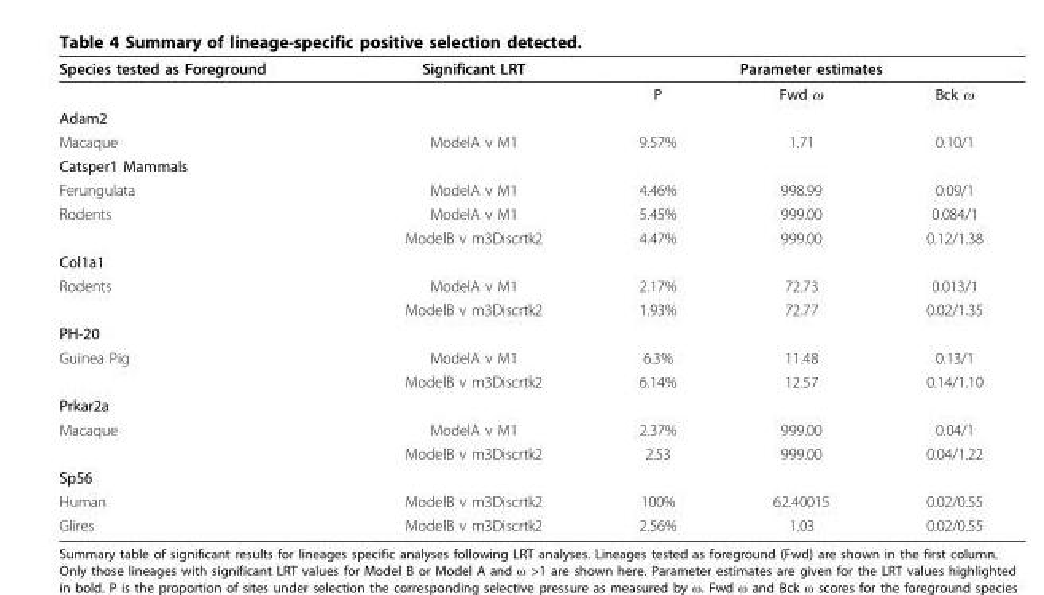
<table><thead><tr><td rowspan="2">Species tested as Foreground</td><td rowspan="2">Significant LRT</td><td colspan="3">Parameter estimates</td></tr><tr><td>P</td><td>Fwd ω</td><td>Bck ω</td></tr></thead><tbody><tr><td colspan="5">Adam2</td></tr><tr><td>Macaque</td><td>ModelA v M1</td><td>9.57%</td><td>1.71</td><td>0.10/1</td></tr><tr><td colspan="5">Catsper1 Mammals</td></tr><tr><td>Ferungulata</td><td>ModelA v M1</td><td>4.46%</td><td>998.99</td><td>0.09/1</td></tr><tr><td rowspan="2">Rodents</td><td>ModelA v M1</td><td>5.45%</td><td>999.00</td><td>0.084/1</td></tr><tr><td>ModelB v m3Discrtk2</td><td>4.47%</td><td>999.00</td><td>0.12/1.38</td></tr><tr><td colspan="5">Col1a1</td></tr><tr><td rowspan="2">Rodents</td><td>ModelA v M1</td><td>2.17%</td><td>72.73</td><td>0.013/1</td></tr><tr><td>ModelB v m3Discrtk2</td><td>1.93%</td><td>72.77</td><td>0.02/1.35</td></tr><tr><td colspan="5">PH-20</td></tr><tr><td rowspan="2">Guinea Pig</td><td>ModelA v M1</td><td>6.3%</td><td>11.48</td><td>0.13/1</td></tr><tr><td>ModelB v m3Discrtk2</td><td>6.14%</td><td>12.57</td><td>0.14/1.10</td></tr><tr><td colspan="5">Prkar2a</td></tr><tr><td rowspan="2">Macaque</td><td>ModelA v M1</td><td>2.37%</td><td>999.00</td><td>0.04/1</td></tr><tr><td>ModelB v m3Discrtk2</td><td>2.53</td><td>999.00</td><td>0.04/1.22</td></tr><tr><td colspan="5">Sp56</td></tr><tr><td>Human</td><td>ModelB v m3Discrtk2</td><td>100%</td><td>62.40015</td><td>0.02/0.55</td></tr><tr><td>Glires</td><td>ModelB v m3Discrtk2</td><td>2.56%</td><td>1.03</td><td>0.02/0.55</td></tr></tbody></table>